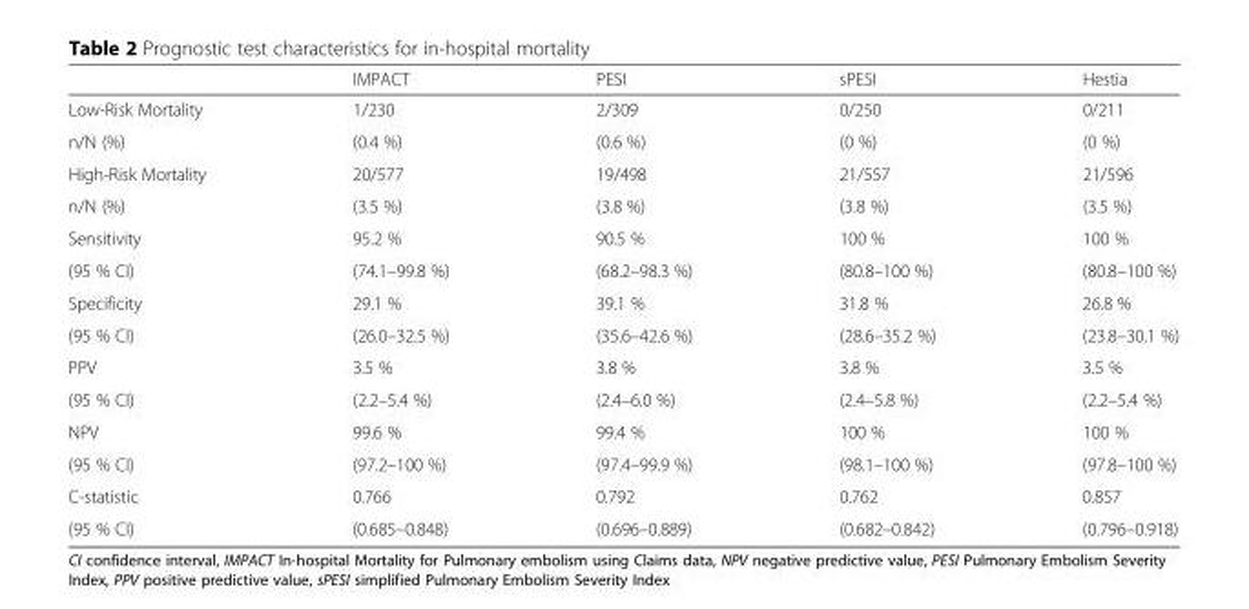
<table><thead><tr><td></td><td>IMPACT</td><td>PESI</td><td>sPESI</td><td>Hestia</td></tr></thead><tbody><tr><td>Low-Risk Mortality</td><td>1/230</td><td>2/309</td><td>0/250</td><td>0/211</td></tr><tr><td>n/N (%)</td><td>(0.4 %)</td><td>(0.6 %)</td><td>(0 %)</td><td>(0 %)</td></tr><tr><td>High-Risk Mortality</td><td>20/577</td><td>19/498</td><td>21/557</td><td>21/596</td></tr><tr><td>n/N (%)</td><td>(3.5 %)</td><td>(3.8 %)</td><td>(3.8 %)</td><td>(3.5 %)</td></tr><tr><td>Sensitivity</td><td>95.2 %</td><td>90.5 %</td><td>100 %</td><td>100 %</td></tr><tr><td>(95 % CI)</td><td>(74.1–99.8 %)</td><td>(68.2–98.3 %)</td><td>(80.8–100 %)</td><td>(80.8–100 %)</td></tr><tr><td>Specificity</td><td>29.1 %</td><td>39.1 %</td><td>31.8 %</td><td>26.8 %</td></tr><tr><td>(95 % CI)</td><td>(26.0–32.5 %)</td><td>(35.6–42.6 %)</td><td>(28.6–35.2 %)</td><td>(23.8–30.1 %)</td></tr><tr><td>PPV</td><td>3.5 %</td><td>3.8 %</td><td>3.8 %</td><td>3.5 %</td></tr><tr><td>(95 % CI)</td><td>(2.2–5.4 %)</td><td>(2.4–6.0 %)</td><td>(2.4–5.8 %)</td><td>(2.2–5.4 %)</td></tr><tr><td>NPV</td><td>99.6 %</td><td>99.4 %</td><td>100 %</td><td>100 %</td></tr><tr><td>(95 % CI)</td><td>(97.2–100 %)</td><td>(97.4–99.9 %)</td><td>(98.1–100 %)</td><td>(97.8–100 %)</td></tr><tr><td>C-statistic</td><td>0.766</td><td>0.792</td><td>0.762</td><td>0.857</td></tr><tr><td>(95 % CI)</td><td>(0.685–0.848)</td><td>(0.696–0.889)</td><td>(0.682–0.842)</td><td>(0.796–0.918)</td></tr></tbody></table>